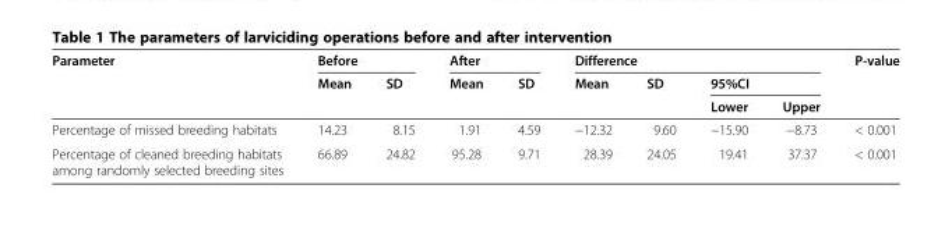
<table><thead><tr><td rowspan="3">Parameter</td><td colspan="2">Before</td><td colspan="2">After</td><td colspan="4">Difference</td><td rowspan="3">P-value</td></tr><tr><td rowspan="2">Mean</td><td rowspan="2">SD</td><td rowspan="2">Mean</td><td rowspan="2">SD</td><td rowspan="2">Mean</td><td rowspan="2">SD</td><td colspan="2">95%CI</td></tr><tr><td>Lower</td><td>Upper</td></tr></thead><tbody><tr><td>Percentage of missed breeding habitats</td><td>14.23</td><td>8.15</td><td>1.91</td><td>4.59</td><td>−12.32</td><td>9.60</td><td>−15.90</td><td>−8.73</td><td>&lt; 0.001</td></tr><tr><td>Percentage of cleaned breeding habitats among randomly selected breeding sites</td><td>66.89</td><td>24.82</td><td>95.28</td><td>9.71</td><td>28.39</td><td>24.05</td><td>19.41</td><td>37.37</td><td>&lt; 0.001</td></tr></tbody></table>